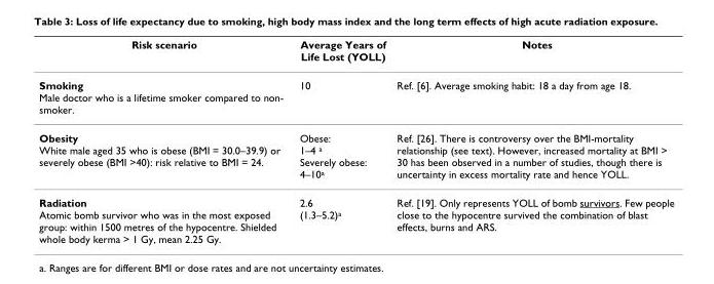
<table><thead><tr><td>Risk scenario</td><td>Average Years of Life Lost (YOLL)</td><td>Notes</td></tr></thead><tbody><tr><td>Smoking Male doctor who is a lifetime smoker compared to non- smoker.</td><td>10</td><td>Ref. [6]. Average smoking habit: 18 a day from age 18.</td></tr><tr><td>Obesity White male aged 35 who is obese (BMI = 30.0–39.9) or severely obese (BMI &gt;40): risk relative to BMI = 24.</td><td>Obese: 1–4 <sup>a</sup> Severely obese: 4–10<sup>a</sup></td><td>Ref. [26]. There is controversy over the BMI-mortality relationship (see text). However, increased mortality at BMI &gt; 30 has been observed in a number of studies, though there is uncertainty in excess mortality rate and hence YOLL.</td></tr><tr><td>Radiation Atomic bomb survivor who was in the most exposed group: within 1500 metres of the hypocentre. Shielded whole body kerma &gt; 1 Gy, mean 2.25 Gy.</td><td>2.6 (1.3–5.2)<sup>a</sup></td><td>Ref. [19]. Only represents YOLL of bomb survivors. Few people close to the hypocentre survived the combination of blast effects, burns and ARS.</td></tr></tbody></table>